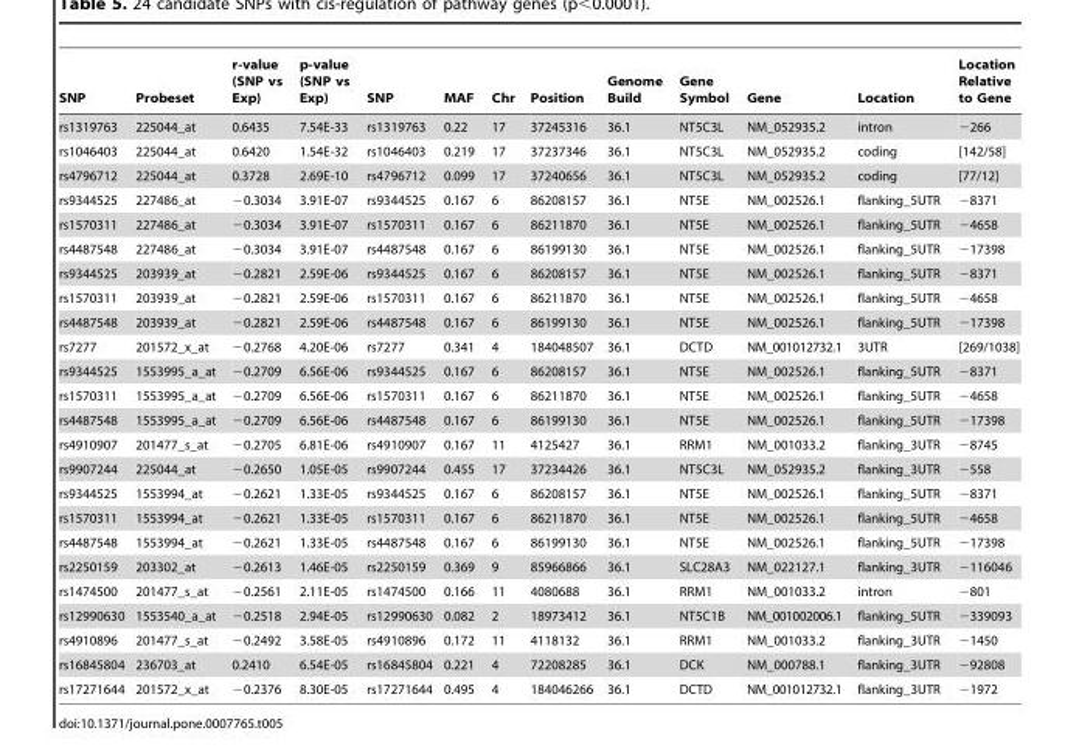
<table><thead><tr><td>SNP</td><td>Probeset</td><td>r-value (SNP vs Exp)</td><td>p-value (SNP vs Exp)</td><td>SNP</td><td>MAF</td><td>Chr</td><td>Position</td><td>Genome Build</td><td>Gene Symbol</td><td>Gene</td><td>Location</td><td>Location Relative to Gene</td></tr></thead><tbody><tr><td>rs1319763</td><td>225044_at</td><td>0.6435</td><td>7.54E-33</td><td>rs1319763</td><td>0.22</td><td>17</td><td>37245316</td><td>36.1</td><td>NT5C3L</td><td>NM_052935.2</td><td>intron</td><td>−266</td></tr><tr><td>rs1046403</td><td>225044_at</td><td>0.6420</td><td>1.54E-32</td><td>rs1046403</td><td>0.219</td><td>17</td><td>37237346</td><td>36.1</td><td>NT5C3L</td><td>NM_052935.2</td><td>coding</td><td>[142/58]</td></tr><tr><td>rs4796712</td><td>225044_at</td><td>0.3728</td><td>2.69E-10</td><td>rs4796712</td><td>0.099</td><td>17</td><td>37240656</td><td>36.1</td><td>NT5C3L</td><td>NM_052935.2</td><td>coding</td><td>[77/12]</td></tr><tr><td>rs9344525</td><td>227486_at</td><td>−0.3034</td><td>3.91E-07</td><td>rs9344525</td><td>0.167</td><td>6</td><td>86208157</td><td>36.1</td><td>NT5E</td><td>NM_002526.1</td><td>flanking_5UTR</td><td>−8371</td></tr><tr><td>rs1570311</td><td>227486_at</td><td>−0.3034</td><td>3.91E-07</td><td>rs1570311</td><td>0.167</td><td>6</td><td>86211870</td><td>36.1</td><td>NT5E</td><td>NM_002526.1</td><td>flanking_5UTR</td><td>−4658</td></tr><tr><td>rs4487548</td><td>227486_at</td><td>−0.3034</td><td>3.91E-07</td><td>rs4487548</td><td>0.167</td><td>6</td><td>86199130</td><td>36.1</td><td>NT5E</td><td>NM_002526.1</td><td>flanking_5UTR</td><td>−17398</td></tr><tr><td>rs9344525</td><td>203939_at</td><td>−0.2821</td><td>2.59E-06</td><td>rs9344525</td><td>0.167</td><td>6</td><td>86208157</td><td>36.1</td><td>NT5E</td><td>NM_002526.1</td><td>flanking_5UTR</td><td>−8371</td></tr><tr><td>rs1570311</td><td>203939_at</td><td>−0.2821</td><td>2.59E-06</td><td>rs1570311</td><td>0.167</td><td>6</td><td>86211870</td><td>36.1</td><td>NT5E</td><td>NM_002526.1</td><td>flanking_5UTR</td><td>−4658</td></tr><tr><td>rs4487548</td><td>203939_at</td><td>−0.2821</td><td>2.59E-06</td><td>rs4487548</td><td>0.167</td><td>6</td><td>86199130</td><td>36.1</td><td>NT5E</td><td>NM_002526.1</td><td>flanking_5UTR</td><td>−17398</td></tr><tr><td>rs7277</td><td>201572_x_at</td><td>−0.2768</td><td>4.20E-06</td><td>rs7277</td><td>0.341</td><td>4</td><td>184048507</td><td>36.1</td><td>DCTD</td><td>NM_001012732.1</td><td>3UTR</td><td>[269/1038]</td></tr><tr><td>rs9344525</td><td>1553995_a_at</td><td>−0.2709</td><td>6.56E-06</td><td>rs9344525</td><td>0.167</td><td>6</td><td>86208157</td><td>36.1</td><td>NT5E</td><td>NM_002526.1</td><td>flanking_5UTR</td><td>−8371</td></tr><tr><td>rs1570311</td><td>1553995_a_at</td><td>−0.2709</td><td>6.56E-06</td><td>rs1570311</td><td>0.167</td><td>6</td><td>86211870</td><td>36.1</td><td>NT5E</td><td>NM_002526.1</td><td>flanking_5UTR</td><td>−4658</td></tr><tr><td>rs4487548</td><td>1553995_a_at</td><td>−0.2709</td><td>6.56E-06</td><td>rs4487548</td><td>0.167</td><td>6</td><td>86199130</td><td>36.1</td><td>NT5E</td><td>NM_002526.1</td><td>flanking_5UTR</td><td>−17398</td></tr><tr><td>rs4910907</td><td>201477_s_at</td><td>−0.2705</td><td>6.81E-06</td><td>rs4910907</td><td>0.167</td><td>11</td><td>4125427</td><td>36.1</td><td>RRM1</td><td>NM_001033.2</td><td>flanking_3UTR</td><td>−8745</td></tr><tr><td>rs9907244</td><td>225044_at</td><td>−0.2650</td><td>1.05E-05</td><td>rs9907244</td><td>0.455</td><td>17</td><td>37234426</td><td>36.1</td><td>NT5C3L</td><td>NM_052935.2</td><td>flanking_3UTR</td><td>−558</td></tr><tr><td>rs9344525</td><td>1553994_at</td><td>−0.2621</td><td>1.33E-05</td><td>rs9344525</td><td>0.167</td><td>6</td><td>86208157</td><td>36.1</td><td>NT5E</td><td>NM_002526.1</td><td>flanking_5UTR</td><td>−8371</td></tr><tr><td>rs1570311</td><td>1553994_at</td><td>−0.2621</td><td>1.33E-05</td><td>rs1570311</td><td>0.167</td><td>6</td><td>86211870</td><td>36.1</td><td>NT5E</td><td>NM_002526.1</td><td>flanking_5UTR</td><td>−4658</td></tr><tr><td>rs4487548</td><td>1553994_at</td><td>−0.2621</td><td>1.33E-05</td><td>rs4487548</td><td>0.167</td><td>6</td><td>86199130</td><td>36.1</td><td>NT5E</td><td>NM_002526.1</td><td>flanking_5UTR</td><td>−17398</td></tr><tr><td>rs2250159</td><td>203302_at</td><td>−0.2613</td><td>1.46E-05</td><td>rs2250159</td><td>0.369</td><td>9</td><td>85966866</td><td>36.1</td><td>SLC28A3</td><td>NM_022127.1</td><td>flanking_3UTR</td><td>−116046</td></tr><tr><td>rs1474500</td><td>201477_s_at</td><td>−0.2561</td><td>2.11E-05</td><td>rs1474500</td><td>0.166</td><td>11</td><td>4080688</td><td>36.1</td><td>RRM1</td><td>NM_001033.2</td><td>intron</td><td>−801</td></tr><tr><td>rs12990630</td><td>1553540_a_at</td><td>−0.2518</td><td>2.94E-05</td><td>rs12990630</td><td>0.082</td><td>2</td><td>18973412</td><td>36.1</td><td>NT5C1B</td><td>NM_001002006.1</td><td>flanking_5UTR</td><td>−339093</td></tr><tr><td>rs4910896</td><td>201477_s_at</td><td>−0.2492</td><td>3.58E-05</td><td>rs4910896</td><td>0.172</td><td>11</td><td>4118132</td><td>36.1</td><td>RRM1</td><td>NM_001033.2</td><td>flanking_3UTR</td><td>−1450</td></tr><tr><td>rs16845804</td><td>236703_at</td><td>0.2410</td><td>6.54E-05</td><td>rs16845804</td><td>0.221</td><td>4</td><td>72208285</td><td>36.1</td><td>DCK</td><td>NM_000788.1</td><td>flanking_3UTR</td><td>−92808</td></tr><tr><td>rs17271644</td><td>201572_x_at</td><td>−0.2376</td><td>8.30E-05</td><td>rs17271644</td><td>0.495</td><td>4</td><td>184046266</td><td>36.1</td><td>DCTD</td><td>NM_001012732.1</td><td>flanking_3UTR</td><td>−1972</td></tr></tbody></table>